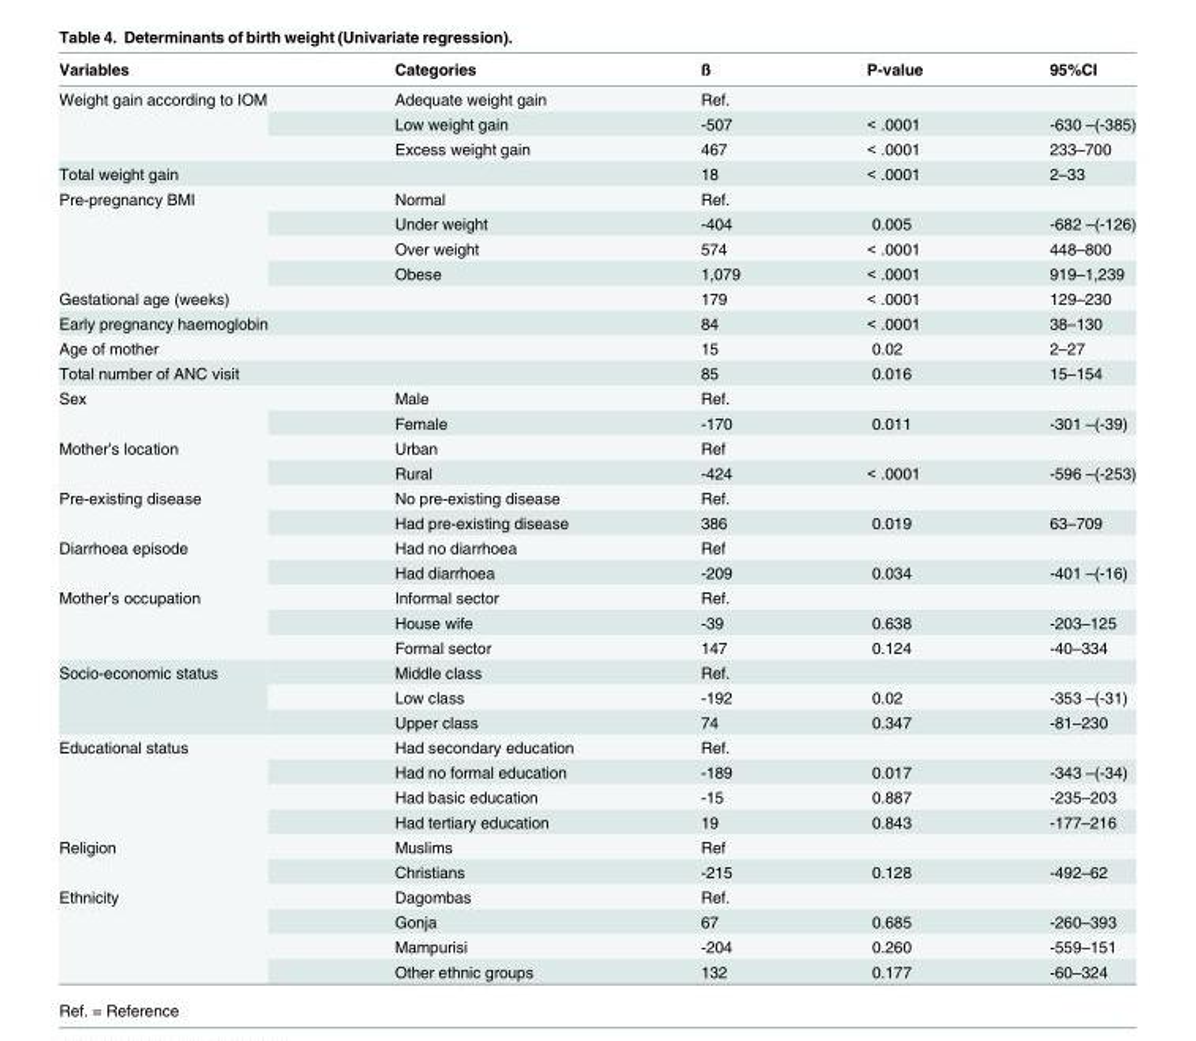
<table><thead><tr><td>Variables</td><td>Categories</td><td>ß</td><td>P-value</td><td>95%CI</td></tr></thead><tbody><tr><td rowspan="3">Weight gain according to IOM</td><td>Adequate weight gain</td><td>Ref.</td><td></td><td></td></tr><tr><td>Low weight gain</td><td>-507</td><td>&lt; .0001</td><td>-630 –(-385)</td></tr><tr><td>Excess weight gain</td><td>467</td><td>&lt; .0001</td><td>233–700</td></tr><tr><td>Total weight gain</td><td></td><td>18</td><td>&lt; .0001</td><td>2–33</td></tr><tr><td rowspan="4">Pre-pregnancy BMI</td><td>Normal</td><td>Ref.</td><td></td><td></td></tr><tr><td>Under weight</td><td>-404</td><td>0.005</td><td>-682 –(-126)</td></tr><tr><td>Over weight</td><td>574</td><td>&lt; .0001</td><td>448–800</td></tr><tr><td>Obese</td><td>1,079</td><td>&lt; .0001</td><td>919–1,239</td></tr><tr><td>Gestational age (weeks)</td><td></td><td>179</td><td>&lt; .0001</td><td>129–230</td></tr><tr><td>Early pregnancy haemoglobin</td><td></td><td>84</td><td>&lt; .0001</td><td>38–130</td></tr><tr><td>Age of mother</td><td></td><td>15</td><td>0.02</td><td>2–27</td></tr><tr><td>Total number of ANC visit</td><td></td><td>85</td><td>0.016</td><td>15–154</td></tr><tr><td rowspan="2">Sex</td><td>Male</td><td>Ref.</td><td></td><td></td></tr><tr><td>Female</td><td>-170</td><td>0.011</td><td>-301 –(-39)</td></tr><tr><td rowspan="2">Mother’s location</td><td>Urban</td><td>Ref</td><td></td><td></td></tr><tr><td>Rural</td><td>-424</td><td>&lt; .0001</td><td>-596 –(-253)</td></tr><tr><td rowspan="2">Pre-existing disease</td><td>No pre-existing disease</td><td>Ref.</td><td></td><td></td></tr><tr><td>Had pre-existing disease</td><td>386</td><td>0.019</td><td>63–709</td></tr><tr><td rowspan="2">Diarrhoea episode</td><td>Had no diarrhoea</td><td>Ref</td><td></td><td></td></tr><tr><td>Had diarrhoea</td><td>-209</td><td>0.034</td><td>-401 –(-16)</td></tr><tr><td rowspan="3">Mother’s occupation</td><td>Informal sector</td><td>Ref.</td><td></td><td></td></tr><tr><td>House wife</td><td>-39</td><td>0.638</td><td>-203–125</td></tr><tr><td>Formal sector</td><td>147</td><td>0.124</td><td>-40–334</td></tr><tr><td rowspan="3">Socio-economic status</td><td>Middle class</td><td>Ref.</td><td></td><td></td></tr><tr><td>Low class</td><td>-192</td><td>0.02</td><td>-353 –(-31)</td></tr><tr><td>Upper class</td><td>74</td><td>0.347</td><td>-81–230</td></tr><tr><td rowspan="4">Educational status</td><td>Had secondary education</td><td>Ref.</td><td></td><td></td></tr><tr><td>Had no formal education</td><td>-189</td><td>0.017</td><td>-343 –(-34)</td></tr><tr><td>Had basic education</td><td>-15</td><td>0.887</td><td>-235–203</td></tr><tr><td>Had tertiary education</td><td>19</td><td>0.843</td><td>-177–216</td></tr><tr><td rowspan="2">Religion</td><td>Muslims</td><td>Ref</td><td></td><td></td></tr><tr><td>Christians</td><td>-215</td><td>0.128</td><td>-492–62</td></tr><tr><td rowspan="4">Ethnicity</td><td>Dagombas</td><td>Ref.</td><td></td><td></td></tr><tr><td>Gonja</td><td>67</td><td>0.685</td><td>-260–393</td></tr><tr><td>Mampurisi</td><td>-204</td><td>0.260</td><td>-559–151</td></tr><tr><td>Other ethnic groups</td><td>132</td><td>0.177</td><td>-60–324</td></tr></tbody></table>